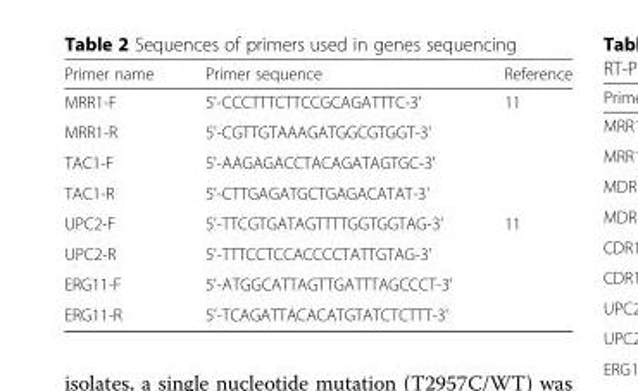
<table><thead><tr><td>Primer name</td><td>Primer sequence</td><td>Reference</td></tr></thead><tbody><tr><td>MRR1-F</td><td>5&#x27;-CCCTTTCTTCCGCAGATTTC-3&#x27;</td><td>11</td></tr><tr><td>MRR1-R</td><td>5&#x27;-CGTTGTAAAGATGGCGTGGT-3&#x27;</td><td></td></tr><tr><td>TAC1-F</td><td>5&#x27;-AAGAGACCTACAGATAGTGC-3&#x27;</td><td></td></tr><tr><td>TAC1-R</td><td>5&#x27;-CTTGAGATGCTGAGACATAT-3&#x27;</td><td></td></tr><tr><td>UPC2-F</td><td>5&#x27;-TTCGTGATAGTTTTGGTGGTAG-3&#x27;</td><td>11</td></tr><tr><td>UPC2-R</td><td>5&#x27;-TTTCCTCCACCCCTATTGTAG-3&#x27;</td><td></td></tr><tr><td>ERG11-F</td><td>5&#x27;-ATGGCATTAGTTGATTTAGCCCT-3&#x27;</td><td></td></tr><tr><td>ERG11-R</td><td>5&#x27;-TCAGATTACACATGTATCTCTTT-3&#x27;</td><td></td></tr></tbody></table>